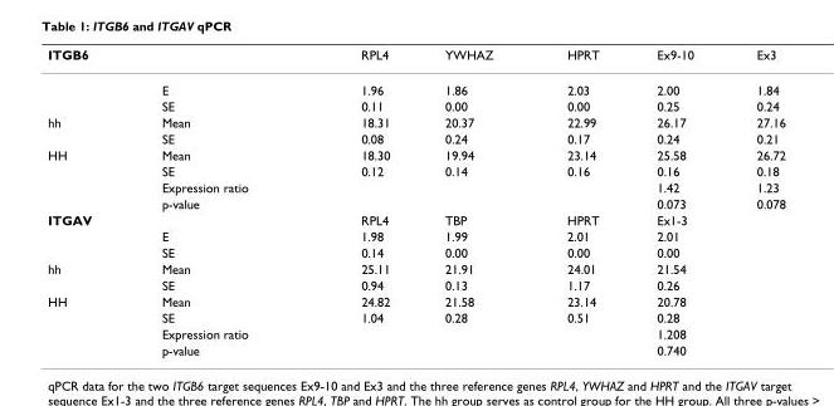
<table><thead><tr><td>ITGB6</td><td></td><td>RPL4</td><td>YWHAZ</td><td>HPRT</td><td>Ex9-10</td><td>Ex3</td></tr></thead><tbody><tr><td></td><td>E</td><td>1.96</td><td>1.86</td><td>2.03</td><td>2.00</td><td>1.84</td></tr><tr><td></td><td>SE</td><td>0.11</td><td>0.00</td><td>0.00</td><td>0.25</td><td>0.24</td></tr><tr><td rowspan="2">hh</td><td>Mean</td><td>18.31</td><td>20.37</td><td>22.99</td><td>26.17</td><td>27.16</td></tr><tr><td>SE</td><td>0.08</td><td>0.24</td><td>0.17</td><td>0.24</td><td>0.21</td></tr><tr><td rowspan="4">HH</td><td>Mean</td><td>18.30</td><td>19.94</td><td>23.14</td><td>25.58</td><td>26.72</td></tr><tr><td>SE</td><td>0.12</td><td>0.14</td><td>0.16</td><td>0.16</td><td>0.18</td></tr><tr><td>Expression ratio</td><td></td><td></td><td></td><td>1.42</td><td>1.23</td></tr><tr><td>p-value</td><td></td><td></td><td></td><td>0.073</td><td>0.078</td></tr><tr><td rowspan="3">ITGAV</td><td></td><td>RPL4</td><td>TBP</td><td>HPRT</td><td>Ex1-3</td><td></td></tr><tr><td>E</td><td>1.98</td><td>1.99</td><td>2.01</td><td>2.01</td><td></td></tr><tr><td>SE</td><td>0.14</td><td>0.00</td><td>0.00</td><td>0.00</td><td></td></tr><tr><td rowspan="2">hh</td><td>Mean</td><td>25.11</td><td>21.91</td><td>24.01</td><td>21.54</td><td></td></tr><tr><td>SE</td><td>0.94</td><td>0.13</td><td>1.17</td><td>0.26</td><td></td></tr><tr><td rowspan="4">HH</td><td>Mean</td><td>24.82</td><td>21.58</td><td>23.14</td><td>20.78</td><td></td></tr><tr><td>SE</td><td>1.04</td><td>0.28</td><td>0.51</td><td>0.28</td><td></td></tr><tr><td>Expression ratio</td><td></td><td></td><td></td><td>1.208</td><td></td></tr><tr><td>p-value</td><td></td><td></td><td></td><td>0.740</td><td></td></tr></tbody></table>